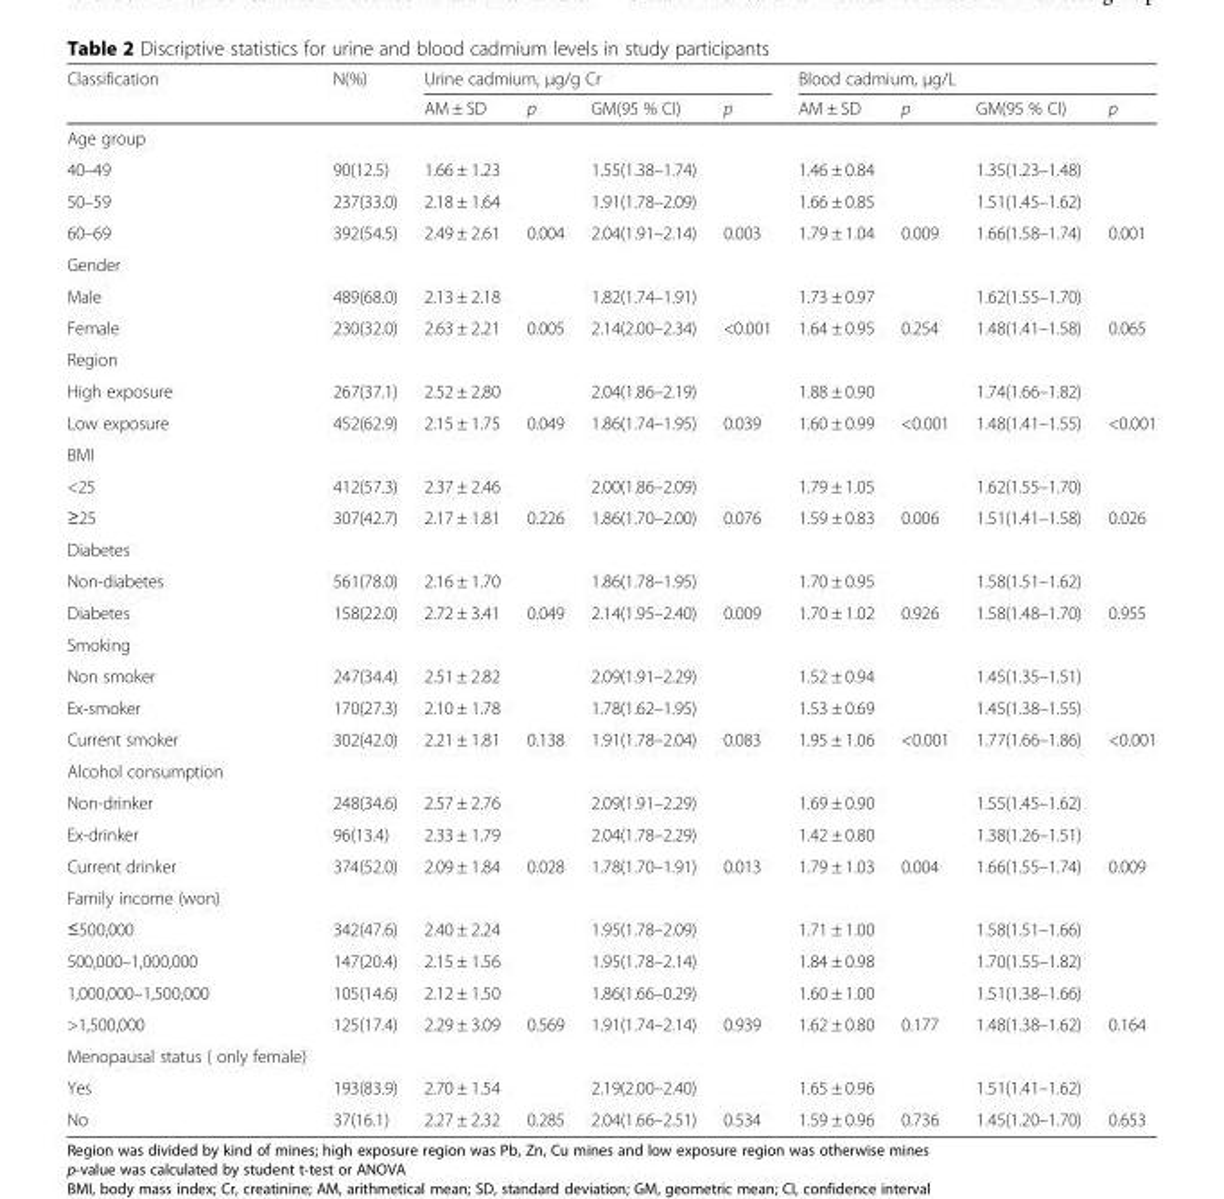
<table><thead><tr><td rowspan="2">Classification</td><td rowspan="2">N(%)</td><td colspan="4">Urine cadmium, μg/g Cr</td><td colspan="4">Blood cadmium, μg/L</td></tr><tr><td>AM ± SD</td><td>p</td><td>GM(95 % CI)</td><td>p</td><td>AM ± SD</td><td>p</td><td>GM(95 % CI)</td><td>p</td></tr></thead><tbody><tr><td colspan="10">Age group</td></tr><tr><td>40–49</td><td>90(12.5)</td><td>1.66 ± 1.23</td><td></td><td>1.55(1.38–1.74)</td><td></td><td>1.46 ± 0.84</td><td></td><td>1.35(1.23–1.48)</td><td></td></tr><tr><td>50–59</td><td>237(33.0)</td><td>2.18 ± 1.64</td><td></td><td>1.91(1.78–2.09)</td><td></td><td>1.66 ± 0.85</td><td></td><td>1.51(1.45–1.62)</td><td></td></tr><tr><td>60–69</td><td>392(54.5)</td><td>2.49 ± 2.61</td><td>0.004</td><td>2.04(1.91–2.14)</td><td>0.003</td><td>1.79 ± 1.04</td><td>0.009</td><td>1.66(1.58–1.74)</td><td>0.001</td></tr><tr><td colspan="10">Gender</td></tr><tr><td>Male</td><td>489(68.0)</td><td>2.13 ± 2.18</td><td></td><td>1.82(1.74–1.91)</td><td></td><td>1.73 ± 0.97</td><td></td><td>1.62(1.55–1.70)</td><td></td></tr><tr><td>Female</td><td>230(32.0)</td><td>2.63 ± 2.21</td><td>0.005</td><td>2.14(2.00–2.34)</td><td>&lt;0.001</td><td>1.64 ± 0.95</td><td>0.254</td><td>1.48(1.41–1.58)</td><td>0.065</td></tr><tr><td colspan="10">Region</td></tr><tr><td>High exposure</td><td>267(37.1)</td><td>2.52 ± 2.80</td><td></td><td>2.04(1.86–2.19)</td><td></td><td>1.88 ± 0.90</td><td></td><td>1.74(1.66–1.82)</td><td></td></tr><tr><td>Low exposure</td><td>452(62.9)</td><td>2.15 ± 1.75</td><td>0.049</td><td>1.86(1.74–1.95)</td><td>0.039</td><td>1.60 ± 0.99</td><td>&lt;0.001</td><td>1.48(1.41–1.55)</td><td>&lt;0.001</td></tr><tr><td colspan="10">BMI</td></tr><tr><td>&lt;25</td><td>412(57.3)</td><td>2.37 ± 2.46</td><td></td><td>2.00(1.86–2.09)</td><td></td><td>1.79 ± 1.05</td><td></td><td>1.62(1.55–1.70)</td><td></td></tr><tr><td>≥25</td><td>307(42.7)</td><td>2.17 ± 1.81</td><td>0.226</td><td>1.86(1.70–2.00)</td><td>0.076</td><td>1.59 ± 0.83</td><td>0.006</td><td>1.51(1.41–1.58)</td><td>0.026</td></tr><tr><td colspan="10">Diabetes</td></tr><tr><td>Non-diabetes</td><td>561(78.0)</td><td>2.16 ± 1.70</td><td></td><td>1.86(1.78–1.95)</td><td></td><td>1.70 ± 0.95</td><td></td><td>1.58(1.51–1.62)</td><td></td></tr><tr><td>Diabetes</td><td>158(22.0)</td><td>2.72 ± 3.41</td><td>0.049</td><td>2.14(1.95–2.40)</td><td>0.009</td><td>1.70 ± 1.02</td><td>0.926</td><td>1.58(1.48–1.70)</td><td>0.955</td></tr><tr><td colspan="10">Smoking</td></tr><tr><td>Non smoker</td><td>247(34.4)</td><td>2.51 ± 2.82</td><td></td><td>2.09(1.91–2.29)</td><td></td><td>1.52 ± 0.94</td><td></td><td>1.45(1.35–1.51)</td><td></td></tr><tr><td>Ex-smoker</td><td>170(27.3)</td><td>2.10 ± 1.78</td><td></td><td>1.78(1.62–1.95)</td><td></td><td>1.53 ± 0.69</td><td></td><td>1.45(1.38–1.55)</td><td></td></tr><tr><td>Current smoker</td><td>302(42.0)</td><td>2.21 ± 1.81</td><td>0.138</td><td>1.91(1.78–2.04)</td><td>0.083</td><td>1.95 ± 1.06</td><td>&lt;0.001</td><td>1.77(1.66–1.86)</td><td>&lt;0.001</td></tr><tr><td colspan="10">Alcohol consumption</td></tr><tr><td>Non-drinker</td><td>248(34.6)</td><td>2.57 ± 2.76</td><td></td><td>2.09(1.91–2.29)</td><td></td><td>1.69 ± 0.90</td><td></td><td>1.55(1.45–1.62)</td><td></td></tr><tr><td>Ex-drinker</td><td>96(13.4)</td><td>2.33 ± 1.79</td><td></td><td>2.04(1.78–2.29)</td><td></td><td>1.42 ± 0.80</td><td></td><td>1.38(1.26–1.51)</td><td></td></tr><tr><td>Current drinker</td><td>374(52.0)</td><td>2.09 ± 1.84</td><td>0.028</td><td>1.78(1.70–1.91)</td><td>0.013</td><td>1.79 ± 1.03</td><td>0.004</td><td>1.66(1.55–1.74)</td><td>0.009</td></tr><tr><td colspan="10">Family income (won)</td></tr><tr><td>≤500,000</td><td>342(47.6)</td><td>2.40 ± 2.24</td><td></td><td>1.95(1.78–2.09)</td><td></td><td>1.71 ± 1.00</td><td></td><td>1.58(1.51–1.66)</td><td></td></tr><tr><td>500,000–1,000,000</td><td>147(20.4)</td><td>2.15 ± 1.56</td><td></td><td>1.95(1.78–2.14)</td><td></td><td>1.84 ± 0.98</td><td></td><td>1.70(1.55–1.82)</td><td></td></tr><tr><td>1,000,000–1,500,000</td><td>105(14.6)</td><td>2.12 ± 1.50</td><td></td><td>1.86(1.66–0.29)</td><td></td><td>1.60 ± 1.00</td><td></td><td>1.51(1.38–1.66)</td><td></td></tr><tr><td>&gt;1,500,000</td><td>125(17.4)</td><td>2.29 ± 3.09</td><td>0.569</td><td>1.91(1.74–2.14)</td><td>0.939</td><td>1.62 ± 0.80</td><td>0.177</td><td>1.48(1.38–1.62)</td><td>0.164</td></tr><tr><td colspan="10">Menopausal status ( only female)</td></tr><tr><td>Yes</td><td>193(83.9)</td><td>2.70 ± 1.54</td><td></td><td>2.19(2.00–2.40)</td><td></td><td>1.65 ± 0.96</td><td></td><td>1.51(1.41–1.62)</td><td></td></tr><tr><td>No</td><td>37(16.1)</td><td>2.27 ± 2.32</td><td>0.285</td><td>2.04(1.66–2.51)</td><td>0.534</td><td>1.59 ± 0.96</td><td>0.736</td><td>1.45(1.20–1.70)</td><td>0.653</td></tr></tbody></table>